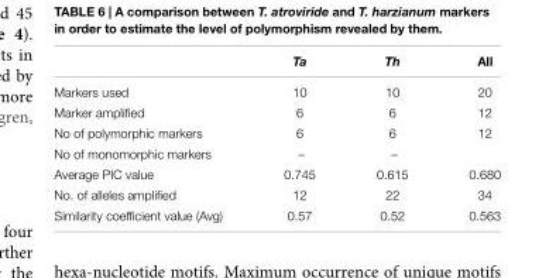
<table><thead><tr><td></td><td>Ta</td><td>Th</td><td>All</td></tr></thead><tbody><tr><td>Markers used</td><td>10</td><td>10</td><td>20</td></tr><tr><td>Marker amplified</td><td>6</td><td>6</td><td>12</td></tr><tr><td>No of polymorphic markers</td><td>6</td><td>6</td><td>12</td></tr><tr><td>No of monomorphic markers</td><td>–</td><td>–</td><td></td></tr><tr><td>Average PIC value</td><td>0.745</td><td>0.615</td><td>0.680</td></tr><tr><td>No. of alleles amplified</td><td>12</td><td>22</td><td>34</td></tr><tr><td>Similarity coefficient value (Avg)</td><td>0.57</td><td>0.52</td><td>0.563</td></tr></tbody></table>